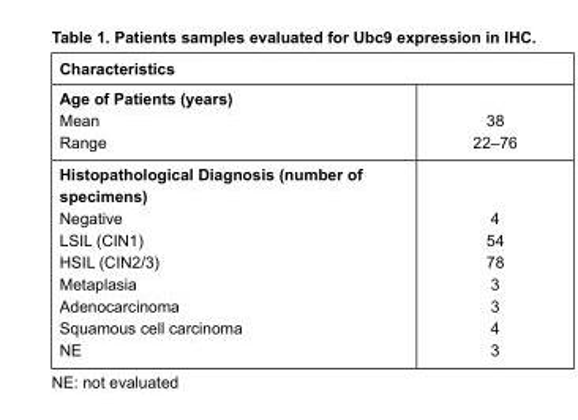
<table><thead><tr><td colspan="2">Characteristics</td></tr><tr><td>Age of Patients (years) Mean Range</td><td>38 22–76</td></tr></thead><tbody><tr><td>Histopathological Diagnosis (number of specimens) Negative LSIL (CIN1) HSIL (CIN2/3) Metaplasia Adenocarcinoma Squamous cell carcinoma NE</td><td>4 54 78 3 3 4 3</td></tr></tbody></table>